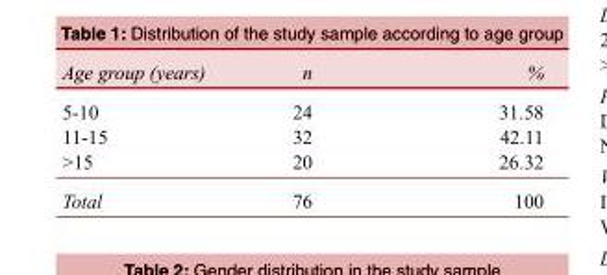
<table><tbody><tr><td>Age group (years)</td><td>n</td><td>%</td></tr><tr><td>5-10</td><td>24</td><td>31.58</td></tr><tr><td>11-15</td><td>32</td><td>42.11</td></tr><tr><td>&gt;15</td><td>20</td><td>26.32</td></tr><tr><td>Total</td><td>76</td><td>100</td></tr></tbody></table>